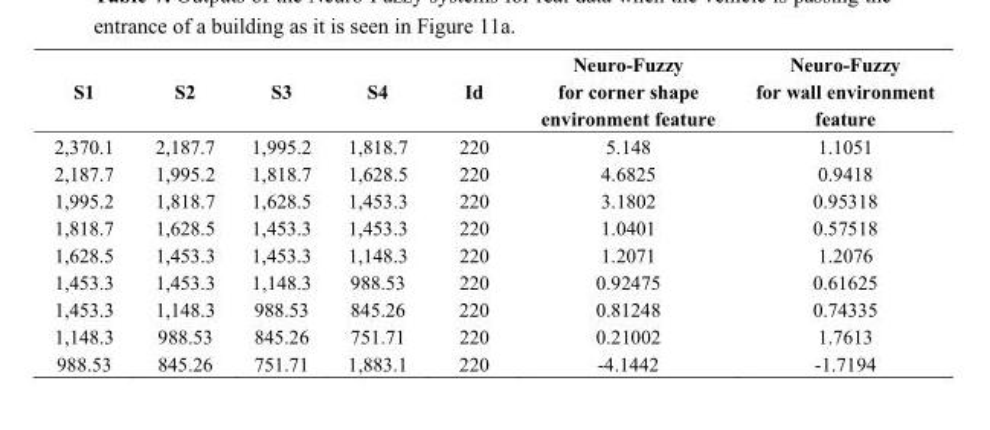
<table><thead><tr><td>S1</td><td>S2</td><td>S3</td><td>S4</td><td>Id</td><td>Neuro-Fuzzy for corner shape environment feature</td><td>Neuro-Fuzzy for wall environment feature</td></tr></thead><tbody><tr><td>2,370.1</td><td>2,187.7</td><td>1,995.2</td><td>1,818.7</td><td>220</td><td>5.148</td><td>1.1051</td></tr><tr><td>2,187.7</td><td>1,995.2</td><td>1,818.7</td><td>1,628.5</td><td>220</td><td>4.6825</td><td>0.9418</td></tr><tr><td>1,995.2</td><td>1,818.7</td><td>1,628.5</td><td>1,453.3</td><td>220</td><td>3.1802</td><td>0.95318</td></tr><tr><td>1,818.7</td><td>1,628.5</td><td>1,453.3</td><td>1,453.3</td><td>220</td><td>1.0401</td><td>0.57518</td></tr><tr><td>1,628.5</td><td>1,453.3</td><td>1,453.3</td><td>1,148.3</td><td>220</td><td>1.2071</td><td>1.2076</td></tr><tr><td>1,453.3</td><td>1,453.3</td><td>1,148.3</td><td>988.53</td><td>220</td><td>0.92475</td><td>0.61625</td></tr><tr><td>1,453.3</td><td>1,148.3</td><td>988.53</td><td>845.26</td><td>220</td><td>0.81248</td><td>0.74335</td></tr><tr><td>1,148.3</td><td>988.53</td><td>845.26</td><td>751.71</td><td>220</td><td>0.21002</td><td>1.7613</td></tr><tr><td>988.53</td><td>845.26</td><td>751.71</td><td>1,883.1</td><td>220</td><td>-4.1442</td><td>-1.7194</td></tr></tbody></table>